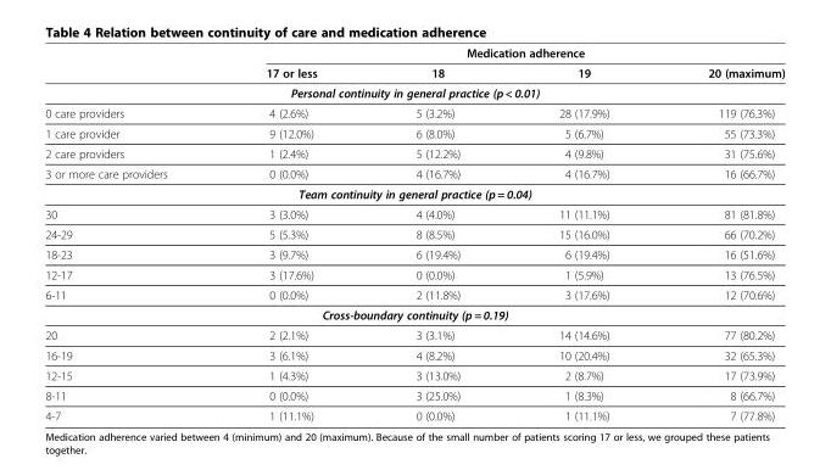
<table><thead><tr><td rowspan="2"></td><td colspan="4">Medication adherence</td></tr><tr><td>17 or less</td><td>18</td><td>19</td><td>20 (maximum)</td></tr></thead><tbody><tr><td colspan="5">Personal continuity in general practice (p &lt; 0.01)</td></tr><tr><td>0 care providers</td><td>4 (2.6%)</td><td>5 (3.2%)</td><td>28 (17.9%)</td><td>119 (76.3%)</td></tr><tr><td>1 care provider</td><td>9 (12.0%)</td><td>6 (8.0%)</td><td>5 (6.7%)</td><td>55 (73.3%)</td></tr><tr><td>2 care providers</td><td>1 (2.4%)</td><td>5 (12.2%)</td><td>4 (9.8%)</td><td>31 (75.6%)</td></tr><tr><td>3 or more care providers</td><td>0 (0.0%)</td><td>4 (16.7%)</td><td>4 (16.7%)</td><td>16 (66.7%)</td></tr><tr><td colspan="5">Team continuity in general practice (p = 0.04)</td></tr><tr><td>30</td><td>3 (3.0%)</td><td>4 (4.0%)</td><td>11 (11.1%)</td><td>81 (81.8%)</td></tr><tr><td>24-29</td><td>5 (5.3%)</td><td>8 (8.5%)</td><td>15 (16.0%)</td><td>66 (70.2%)</td></tr><tr><td>18-23</td><td>3 (9.7%)</td><td>6 (19.4%)</td><td>6 (19.4%)</td><td>16 (51.6%)</td></tr><tr><td>12-17</td><td>3 (17.6%)</td><td>0 (0.0%)</td><td>1 (5.9%)</td><td>13 (76.5%)</td></tr><tr><td>6-11</td><td>0 (0.0%)</td><td>2 (11.8%)</td><td>3 (17.6%)</td><td>12 (70.6%)</td></tr><tr><td colspan="5">Cross-boundary continuity (p = 0.19)</td></tr><tr><td>20</td><td>2 (2.1%)</td><td>3 (3.1%)</td><td>14 (14.6%)</td><td>77 (80.2%)</td></tr><tr><td>16-19</td><td>3 (6.1%)</td><td>4 (8.2%)</td><td>10 (20.4%)</td><td>32 (65.3%)</td></tr><tr><td>12-15</td><td>1 (4.3%)</td><td>3 (13.0%)</td><td>2 (8.7%)</td><td>17 (73.9%)</td></tr><tr><td>8-11</td><td>0 (0.0%)</td><td>3 (25.0%)</td><td>1 (8.3%)</td><td>8 (66.7%)</td></tr><tr><td>4-7</td><td>1 (11.1%)</td><td>0 (0.0%)</td><td>1 (11.1%)</td><td>7 (77.8%)</td></tr></tbody></table>